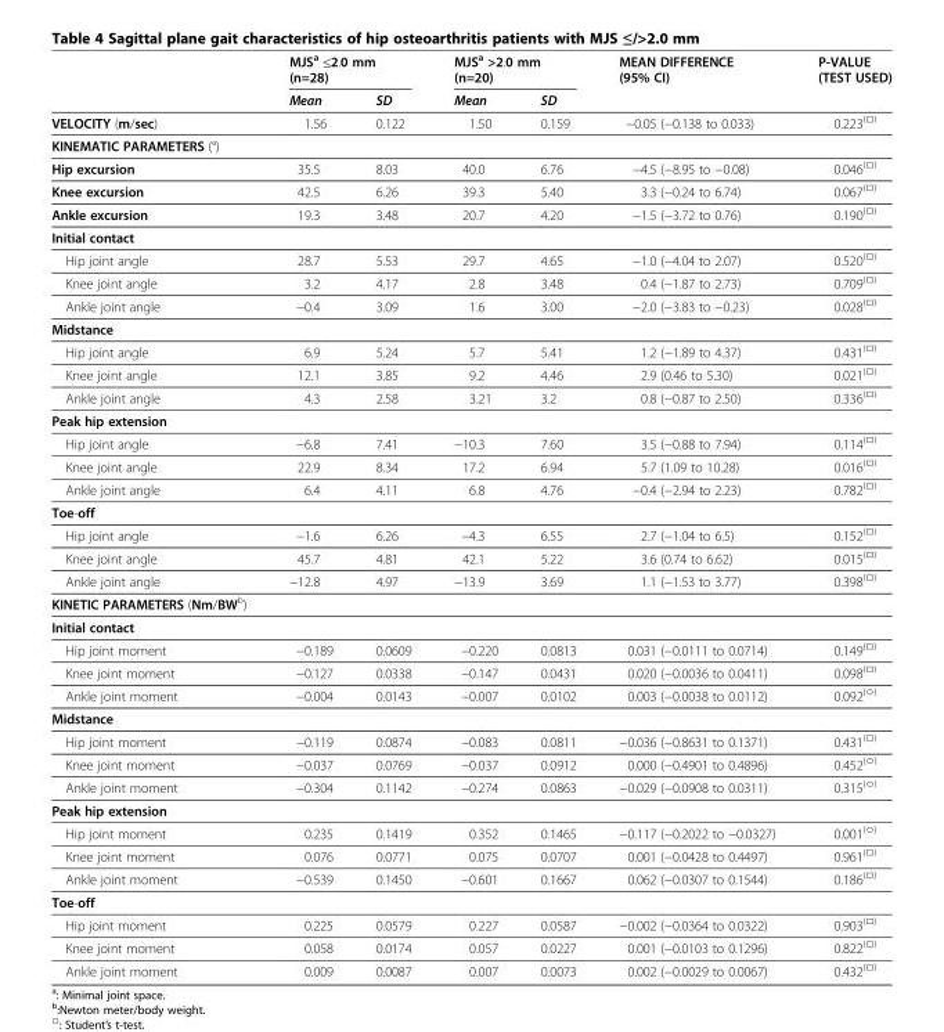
<table><thead><tr><td rowspan="2"></td><td colspan="2">MJS<sup>a</sup> ≤2.0 mm (n=28)</td><td colspan="2">MJS<sup>a</sup> &gt;2.0 mm (n=20)</td><td rowspan="2">MEAN DIFFERENCE (95% CI)</td><td rowspan="2">P-VALUE (TEST USED)</td></tr><tr><td>Mean</td><td>SD</td><td>Mean</td><td>SD</td></tr></thead><tbody><tr><td>VELOCITY (m/sec)</td><td>1.56</td><td>0.122</td><td>1.50</td><td>0.159</td><td>−0.05 (−0.138 to 0.033)</td><td>0.223<sup>(□)</sup></td></tr><tr><td colspan="7">KINEMATIC PARAMETERS (°)</td></tr><tr><td>Hip excursion</td><td>35.5</td><td>8.03</td><td>40.0</td><td>6.76</td><td>−4.5 (−8.95 to −0.08)</td><td>0.046<sup>(□)</sup></td></tr><tr><td>Knee excursion</td><td>42.5</td><td>6.26</td><td>39.3</td><td>5.40</td><td>3.3 (−0.24 to 6.74)</td><td>0.067<sup>(□)</sup></td></tr><tr><td>Ankle excursion</td><td>19.3</td><td>3.48</td><td>20.7</td><td>4.20</td><td>−1.5 (−3.72 to 0.76)</td><td>0.190<sup>(□)</sup></td></tr><tr><td colspan="7">Initial contact</td></tr><tr><td>Hip joint angle</td><td>28.7</td><td>5.53</td><td>29.7</td><td>4.65</td><td>−1.0 (−4.04 to 2.07)</td><td>0.520<sup>(□)</sup></td></tr><tr><td>Knee joint angle</td><td>3.2</td><td>4.17</td><td>2.8</td><td>3.48</td><td>0.4 (−1.87 to 2.73)</td><td>0.709<sup>(□)</sup></td></tr><tr><td>Ankle joint angle</td><td>−0.4</td><td>3.09</td><td>1.6</td><td>3.00</td><td>−2.0 (−3.83 to −0.23)</td><td>0.028<sup>(□)</sup></td></tr><tr><td colspan="7">Midstance</td></tr><tr><td>Hip joint angle</td><td>6.9</td><td>5.24</td><td>5.7</td><td>5.41</td><td>1.2 (−1.89 to 4.37)</td><td>0.431<sup>(□)</sup></td></tr><tr><td>Knee joint angle</td><td>12.1</td><td>3.85</td><td>9.2</td><td>4.46</td><td>2.9 (0.46 to 5.30)</td><td>0.021<sup>(□)</sup></td></tr><tr><td>Ankle joint angle</td><td>4.3</td><td>2.58</td><td>3.21</td><td>3.2</td><td>0.8 (−0.87 to 2.50)</td><td>0.336<sup>(□)</sup></td></tr><tr><td colspan="7">Peak hip extension</td></tr><tr><td>Hip joint angle</td><td>−6.8</td><td>7.41</td><td>−10.3</td><td>7.60</td><td>3.5 (−0.88 to 7.94)</td><td>0.114<sup>(□)</sup></td></tr><tr><td>Knee joint angle</td><td>22.9</td><td>8.34</td><td>17.2</td><td>6.94</td><td>5.7 (1.09 to 10.28)</td><td>0.016<sup>(□)</sup></td></tr><tr><td>Ankle joint angle</td><td>6.4</td><td>4.11</td><td>6.8</td><td>4.76</td><td>−0.4 (−2.94 to 2.23)</td><td>0.782<sup>(□)</sup></td></tr><tr><td colspan="7">Toe-off</td></tr><tr><td>Hip joint angle</td><td>−1.6</td><td>6.26</td><td>−4.3</td><td>6.55</td><td>2.7 (−1.04 to 6.5)</td><td>0.152<sup>(□)</sup></td></tr><tr><td>Knee joint angle</td><td>45.7</td><td>4.81</td><td>42.1</td><td>5.22</td><td>3.6 (0.74 to 6.62)</td><td>0.015<sup>(□)</sup></td></tr><tr><td>Ankle joint angle</td><td>−12.8</td><td>4.97</td><td>−13.9</td><td>3.69</td><td>1.1 (−1.53 to 3.77)</td><td>0.398<sup>(□)</sup></td></tr><tr><td colspan="7">KINETIC PARAMETERS (Nm/BW<sup>b</sup>)</td></tr><tr><td colspan="7">Initial contact</td></tr><tr><td>Hip joint moment</td><td>−0.189</td><td>0.0609</td><td>−0.220</td><td>0.0813</td><td>0.031 (−0.0111 to 0.0714)</td><td>0.149<sup>(□)</sup></td></tr><tr><td>Knee joint moment</td><td>−0.127</td><td>0.0338</td><td>−0.147</td><td>0.0431</td><td>0.020 (−0.0036 to 0.0411)</td><td>0.098<sup>(□)</sup></td></tr><tr><td>Ankle joint moment</td><td>−0.004</td><td>0.0143</td><td>−0.007</td><td>0.0102</td><td>0.003 (−0.0038 to 0.0112)</td><td>0.092<sup>(○)</sup></td></tr><tr><td colspan="7">Midstance</td></tr><tr><td>Hip joint moment</td><td>−0.119</td><td>0.0874</td><td>−0.083</td><td>0.0811</td><td>−0.036 (−0.8631 to 0.1371)</td><td>0.431<sup>(□)</sup></td></tr><tr><td>Knee joint moment</td><td>−0.037</td><td>0.0769</td><td>−0.037</td><td>0.0912</td><td>0.000 (−0.4901 to 0.4896)</td><td>0.452<sup>(○)</sup></td></tr><tr><td>Ankle joint moment</td><td>−0.304</td><td>0.1142</td><td>−0.274</td><td>0.0863</td><td>−0.029 (−0.0908 to 0.0311)</td><td>0.315<sup>(○)</sup></td></tr><tr><td colspan="7">Peak hip extension</td></tr><tr><td>Hip joint moment</td><td>0.235</td><td>0.1419</td><td>0.352</td><td>0.1465</td><td>−0.117 (−0.2022 to −0.0327)</td><td>0.001<sup>(○)</sup></td></tr><tr><td>Knee joint moment</td><td>0.076</td><td>0.0771</td><td>0.075</td><td>0.0707</td><td>0.001 (−0.0428 to 0.4497)</td><td>0.961<sup>(□)</sup></td></tr><tr><td>Ankle joint moment</td><td>−0.539</td><td>0.1450</td><td>−0.601</td><td>0.1667</td><td>0.062 (−0.0307 to 0.1544)</td><td>0.186<sup>(□)</sup></td></tr><tr><td colspan="7">Toe-off</td></tr><tr><td>Hip joint moment</td><td>0.225</td><td>0.0579</td><td>0.227</td><td>0.0587</td><td>−0.002 (−0.0364 to 0.0322)</td><td>0.903<sup>(□)</sup></td></tr><tr><td>Knee joint moment</td><td>0.058</td><td>0.0174</td><td>0.057</td><td>0.0227</td><td>0.001 (−0.0103 to 0.1296)</td><td>0.822<sup>(□)</sup></td></tr><tr><td>Ankle joint moment</td><td>0.009</td><td>0.0087</td><td>0.007</td><td>0.0073</td><td>0.002 (−0.0029 to 0.0067)</td><td>0.432<sup>(□)</sup></td></tr></tbody></table>